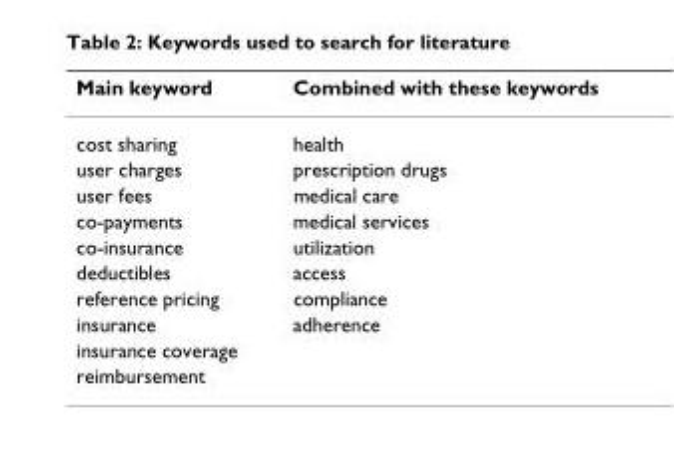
<table><thead><tr><td>Main keyword</td><td>Combined with these keywords</td></tr></thead><tbody><tr><td>cost sharing</td><td>health</td></tr><tr><td>user charges</td><td>prescription drugs</td></tr><tr><td>user fees</td><td>medical care</td></tr><tr><td>co-payments</td><td>medical services</td></tr><tr><td>co-insurance</td><td>utilization</td></tr><tr><td>deductibles</td><td>access</td></tr><tr><td>reference pricing</td><td>compliance</td></tr><tr><td>insurance</td><td>adherence</td></tr><tr><td colspan="2">insurance coverage</td></tr><tr><td>reimbursement</td><td></td></tr></tbody></table>